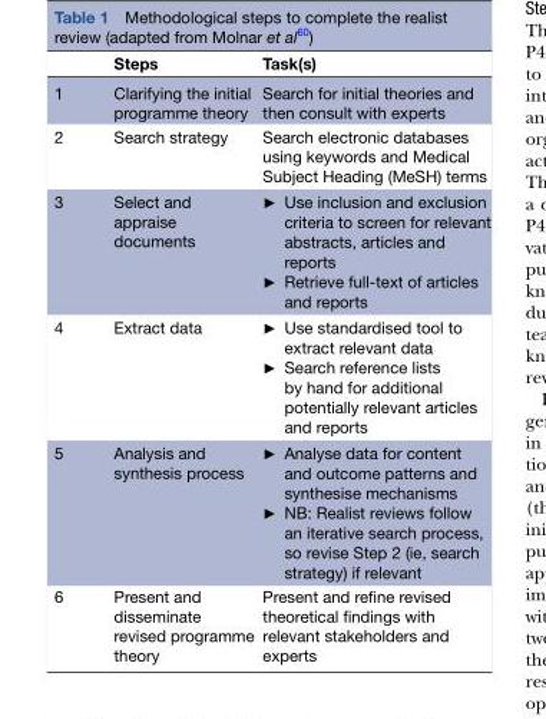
<table><thead><tr><td></td><td>Steps</td><td>Task(s)</td></tr></thead><tbody><tr><td>1</td><td>Clarifying the initial programme theory</td><td>Search for initial theories and then consult with experts</td></tr><tr><td>2</td><td>Search strategy</td><td>Search electronic databases using keywords and Medical Subject Heading (MeSH) terms</td></tr><tr><td>3</td><td>Select and appraise documents</td><td>► Use inclusion and exclusion criteria to screen for relevant abstracts, articles and reports ► Retrieve full-text of articles and reports</td></tr><tr><td>4</td><td>Extract data</td><td>► Use standardised tool to extract relevant data ► Search reference lists by hand for additional potentially relevant articles and reports</td></tr><tr><td>5</td><td>Analysis and synthesis process</td><td>► Analyse data for content and outcome patterns and synthesise mechanisms ► NB: Realist reviews follow an iterative search process, so revise Step 2 (ie, search strategy) if relevant</td></tr><tr><td>6</td><td>Present and disseminate revised programme theory</td><td>Present and refine revised theoretical findings with relevant stakeholders and experts</td></tr></tbody></table>